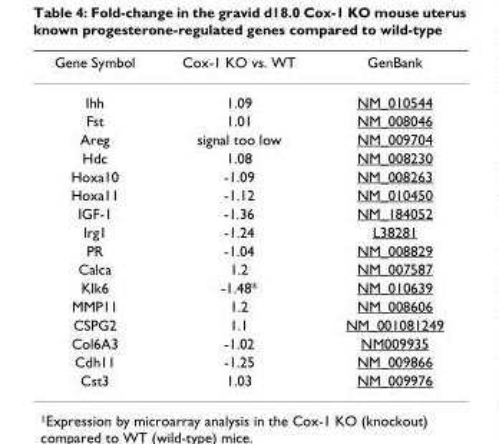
<table><thead><tr><td>Gene Symbol</td><td>Cox-1 KO vs. WT</td><td>GenBank</td></tr></thead><tbody><tr><td>Ihh</td><td>1.09</td><td>NM_010544</td></tr><tr><td>Fst</td><td>1.01</td><td>NM_008046</td></tr><tr><td>Areg</td><td>signal too low</td><td>NM_009704</td></tr><tr><td>Hdc</td><td>1.08</td><td>NM_008230</td></tr><tr><td>Hoxa10</td><td>-1.09</td><td>NM_008263</td></tr><tr><td>Hoxa11</td><td>-1.12</td><td>NM_010450</td></tr><tr><td>IGF-1</td><td>-1.36</td><td>NM_184052</td></tr><tr><td>Irg1</td><td>-1.24</td><td>L38281</td></tr><tr><td>PR</td><td>-1.04</td><td>NM_008829</td></tr><tr><td>Calca</td><td>1.2</td><td>NM_007587</td></tr><tr><td>Klk6</td><td>-1.48*</td><td>NM_010639</td></tr><tr><td>MMP11</td><td>1.2</td><td>NM_008606</td></tr><tr><td>CSPG2</td><td>1.1</td><td>NM_001081249</td></tr><tr><td>Col6A3</td><td>-1.02</td><td>NM009935</td></tr><tr><td>Cdh11</td><td>-1.25</td><td>NM_009866</td></tr><tr><td>Cst3</td><td>1.03</td><td>NM_009976</td></tr></tbody></table>